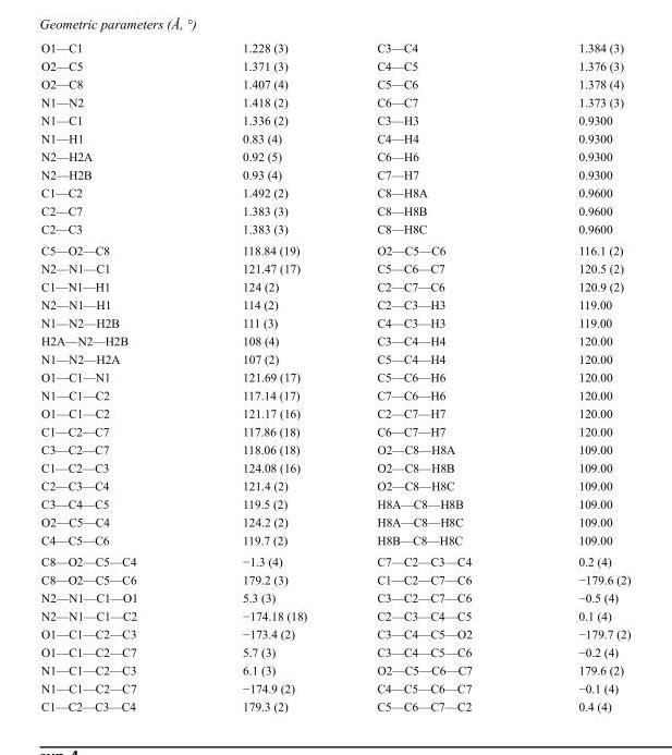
<table><tbody><tr><td>O1—C1</td><td>1.228 (3)</td><td>C3—C4</td><td>1.384 (3)</td></tr><tr><td>O2—C5</td><td>1.371 (3)</td><td>C4—C5</td><td>1.376 (3)</td></tr><tr><td>O2—C8</td><td>1.407 (4)</td><td>C5—C6</td><td>1.378 (4)</td></tr><tr><td>N1—N2</td><td>1.418 (2)</td><td>C6—C7</td><td>1.373 (3)</td></tr><tr><td>N1—C1</td><td>1.336 (2)</td><td>C3—H3</td><td>0.9300</td></tr><tr><td>N1—H1</td><td>0.83 (4)</td><td>C4—H4</td><td>0.9300</td></tr><tr><td>N2—H2A</td><td>0.92 (5)</td><td>C6—H6</td><td>0.9300</td></tr><tr><td>N2—H2B</td><td>0.93 (4)</td><td>C7—H7</td><td>0.9300</td></tr><tr><td>C1—C2</td><td>1.492 (2)</td><td>C8—H8A</td><td>0.9600</td></tr><tr><td>C2—C7</td><td>1.383 (3)</td><td>C8—H8B</td><td>0.9600</td></tr><tr><td>C2—C3</td><td>1.383 (3)</td><td>C8—H8C</td><td>0.9600</td></tr><tr><td>C5—O2—C8</td><td>118.84 (19)</td><td>O2—C5—C6</td><td>116.1 (2)</td></tr><tr><td>N2—N1—C1</td><td>121.47 (17)</td><td>C5—C6—C7</td><td>120.5 (2)</td></tr><tr><td>C1—N1—H1</td><td>124 (2)</td><td>C2—C7—C6</td><td>120.9 (2)</td></tr><tr><td>N2—N1—H1</td><td>114 (2)</td><td>C2—C3—H3</td><td>119.00</td></tr><tr><td>N1—N2—H2B</td><td>111 (3)</td><td>C4—C3—H3</td><td>119.00</td></tr><tr><td>H2A—N2—H2B</td><td>108 (4)</td><td>C3—C4—H4</td><td>120.00</td></tr><tr><td>N1—N2—H2A</td><td>107 (2)</td><td>C5—C4—H4</td><td>120.00</td></tr><tr><td>O1—C1—N1</td><td>121.69 (17)</td><td>C5—C6—H6</td><td>120.00</td></tr><tr><td>N1—C1—C2</td><td>117.14 (17)</td><td>C7—C6—H6</td><td>120.00</td></tr><tr><td>O1—C1—C2</td><td>121.17 (16)</td><td>C2—C7—H7</td><td>120.00</td></tr><tr><td>C1—C2—C7</td><td>117.86 (18)</td><td>C6—C7—H7</td><td>120.00</td></tr><tr><td>C3—C2—C7</td><td>118.06 (18)</td><td>O2—C8—H8A</td><td>109.00</td></tr><tr><td>C1—C2—C3</td><td>124.08 (16)</td><td>O2—C8—H8B</td><td>109.00</td></tr><tr><td>C2—C3—C4</td><td>121.4 (2)</td><td>O2—C8—H8C</td><td>109.00</td></tr><tr><td>C3—C4—C5</td><td>119.5 (2)</td><td>H8A—C8—H8B</td><td>109.00</td></tr><tr><td>O2—C5—C4</td><td>124.2 (2)</td><td>H8A—C8—H8C</td><td>109.00</td></tr><tr><td>C4—C5—C6</td><td>119.7 (2)</td><td>H8B—C8—H8C</td><td>109.00</td></tr><tr><td>C8—O2—C5—C4</td><td>−1.3 (4)</td><td>C7—C2—C3—C4</td><td>0.2 (4)</td></tr><tr><td>C8—O2—C5—C6</td><td>179.2 (3)</td><td>C1—C2—C7—C6</td><td>−179.6 (2)</td></tr><tr><td>N2—N1—C1—O1</td><td>5.3 (3)</td><td>C3—C2—C7—C6</td><td>−0.5 (4)</td></tr><tr><td>N2—N1—C1—C2</td><td>−174.18 (18)</td><td>C2—C3—C4—C5</td><td>0.1 (4)</td></tr><tr><td>O1—C1—C2—C3</td><td>−173.4 (2)</td><td>C3—C4—C5—O2</td><td>−179.7 (2)</td></tr><tr><td>O1—C1—C2—C7</td><td>5.7 (3)</td><td>C3—C4—C5—C6</td><td>−0.2 (4)</td></tr><tr><td>N1—C1—C2—C3</td><td>6.1 (3)</td><td>O2—C5—C6—C7</td><td>179.6 (2)</td></tr><tr><td>N1—C1—C2—C7</td><td>−174.9 (2)</td><td>C4—C5—C6—C7</td><td>−0.1 (4)</td></tr><tr><td>C1—C2—C3—C4</td><td>179.3 (2)</td><td>C5—C6—C7—C2</td><td>0.4 (4)</td></tr></tbody></table>